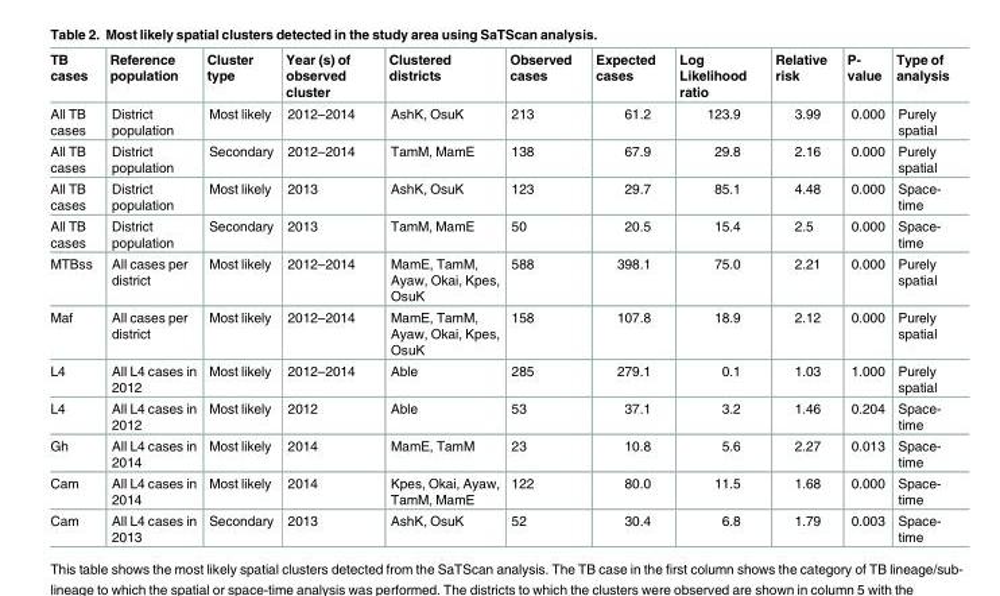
<table><thead><tr><td>TB cases</td><td>Reference population</td><td>Cluster type</td><td>Year (s) of observed cluster</td><td>Clustered districts</td><td>Observed cases</td><td>Expected cases</td><td>Log Likelihood ratio</td><td>Relative risk</td><td>P- value</td><td>Type of analysis</td></tr></thead><tbody><tr><td>All TB cases</td><td>District population</td><td>Most likely</td><td>2012–2014</td><td>AshK, OsuK</td><td>213</td><td>61.2</td><td>123.9</td><td>3.99</td><td>0.000</td><td>Purely spatial</td></tr><tr><td>All TB cases</td><td>District population</td><td>Secondary</td><td>2012–2014</td><td>TamM, MamE</td><td>138</td><td>67.9</td><td>29.8</td><td>2.16</td><td>0.000</td><td>Purely spatial</td></tr><tr><td>All TB cases</td><td>District population</td><td>Most likely</td><td>2013</td><td>AshK, OsuK</td><td>123</td><td>29.7</td><td>85.1</td><td>4.48</td><td>0.000</td><td>Space- time</td></tr><tr><td>All TB cases</td><td>District population</td><td>Secondary</td><td>2013</td><td>TamM, MamE</td><td>50</td><td>20.5</td><td>15.4</td><td>2.5</td><td>0.000</td><td>Space- time</td></tr><tr><td>MTBss</td><td>All cases per district</td><td>Most likely</td><td>2012–2014</td><td>MamE, TamM, Ayaw, Okai, Kpes, OsuK</td><td>588</td><td>398.1</td><td>75.0</td><td>2.21</td><td>0.000</td><td>Purely spatial</td></tr><tr><td>Maf</td><td>All cases per district</td><td>Most likely</td><td>2012–2014</td><td>MamE, TamM, Ayaw, Okai, Kpes, OsuK</td><td>158</td><td>107.8</td><td>18.9</td><td>2.12</td><td>0.000</td><td>Purely spatial</td></tr><tr><td>L4</td><td>All L4 cases in 2012</td><td>Most likely</td><td>2012–2014</td><td>Able</td><td>285</td><td>279.1</td><td>0.1</td><td>1.03</td><td>1.000</td><td>Purely spatial</td></tr><tr><td>L4</td><td>All L4 cases in 2012</td><td>Most likely</td><td>2012</td><td>Able</td><td>53</td><td>37.1</td><td>3.2</td><td>1.46</td><td>0.204</td><td>Space- time</td></tr><tr><td>Gh</td><td>All L4 cases in 2014</td><td>Most likely</td><td>2014</td><td>MamE, TamM</td><td>23</td><td>10.8</td><td>5.6</td><td>2.27</td><td>0.013</td><td>Space- time</td></tr><tr><td>Cam</td><td>All L4 cases in 2014</td><td>Most likely</td><td>2014</td><td>Kpes, Okai, Ayaw, TamM, MamE</td><td>122</td><td>80.0</td><td>11.5</td><td>1.68</td><td>0.000</td><td>Space- time</td></tr><tr><td>Cam</td><td>All L4 cases in 2013</td><td>Secondary</td><td>2013</td><td>AshK, OsuK</td><td>52</td><td>30.4</td><td>6.8</td><td>1.79</td><td>0.003</td><td>Space- time</td></tr></tbody></table>